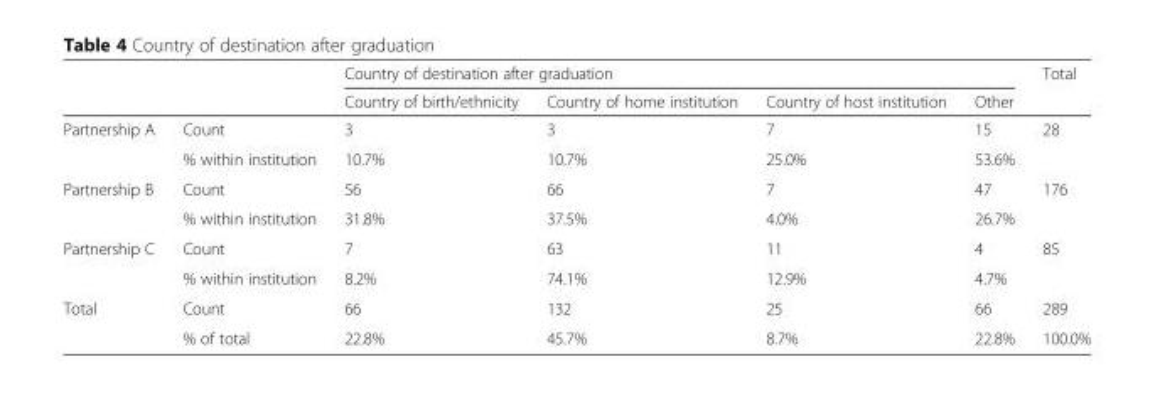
<table><thead><tr><td rowspan="2"></td><td rowspan="2"></td><td colspan="4">Country of destination after graduation</td><td rowspan="2">Total</td></tr><tr><td>Country of birth/ethnicity</td><td>Country of home institution</td><td>Country of host institution</td><td>Other</td></tr></thead><tbody><tr><td rowspan="2">Partnership A</td><td>Count</td><td>3</td><td>3</td><td>7</td><td>15</td><td>28</td></tr><tr><td>% within institution</td><td>10.7%</td><td>10.7%</td><td>25.0%</td><td>53.6%</td><td></td></tr><tr><td rowspan="2">Partnership B</td><td>Count</td><td>56</td><td>66</td><td>7</td><td>47</td><td>176</td></tr><tr><td>% within institution</td><td>31.8%</td><td>37.5%</td><td>4.0%</td><td>26.7%</td><td></td></tr><tr><td rowspan="2">Partnership C</td><td>Count</td><td>7</td><td>63</td><td>11</td><td>4</td><td>85</td></tr><tr><td>% within institution</td><td>8.2%</td><td>74.1%</td><td>12.9%</td><td>4.7%</td><td></td></tr><tr><td rowspan="2">Total</td><td>Count</td><td>66</td><td>132</td><td>25</td><td>66</td><td>289</td></tr><tr><td>% of total</td><td>22.8%</td><td>45.7%</td><td>8.7%</td><td>22.8%</td><td>100.0%</td></tr></tbody></table>